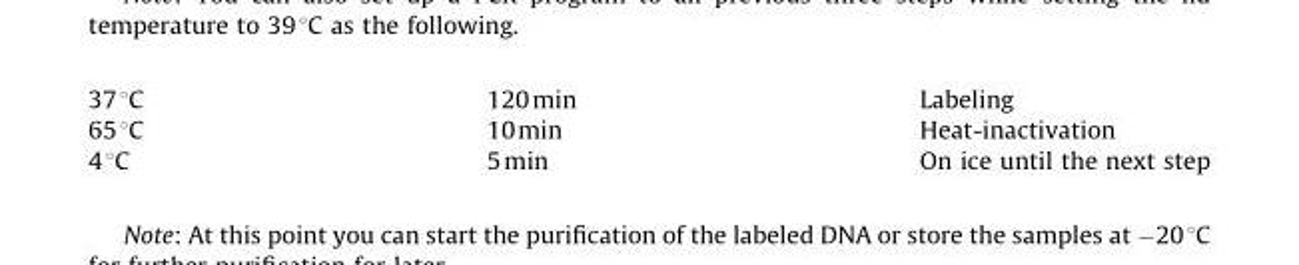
<table><tbody><tr><td>37°C</td><td>120min</td><td>Labeling</td></tr><tr><td>65°C</td><td>10min</td><td>Heat-inactivation</td></tr><tr><td>4°C</td><td>5min</td><td>On ice until the next step</td></tr></tbody></table>